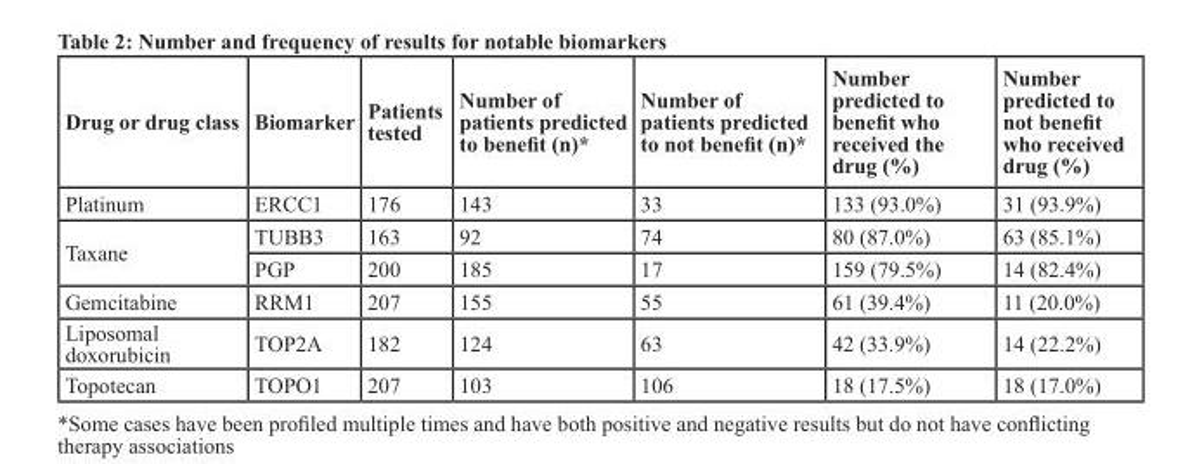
<table><thead><tr><td>Drug or drug class</td><td>Biomarker</td><td>Patients tested</td><td>Number of patients predicted to benefit (n)*</td><td>Number of patients predicted to not benefit (n)*</td><td>Number predicted to benefit who received the drug (%)</td><td>Number predicted to not benefit who received drug (%)</td></tr></thead><tbody><tr><td>Platinum</td><td>ERCC1</td><td>176</td><td>143</td><td>33</td><td>133 (93.0%)</td><td>31 (93.9%)</td></tr><tr><td rowspan="2">Taxane</td><td>TUBB3</td><td>163</td><td>92</td><td>74</td><td>80 (87.0%)</td><td>63 (85.1%)</td></tr><tr><td>PGP</td><td>200</td><td>185</td><td>17</td><td>159 (79.5%)</td><td>14 (82.4%)</td></tr><tr><td>Gemcitabine</td><td>RRM1</td><td>207</td><td>155</td><td>55</td><td>61 (39.4%)</td><td>11 (20.0%)</td></tr><tr><td>Liposomal doxorubicin</td><td>TOP2A</td><td>182</td><td>124</td><td>63</td><td>42 (33.9%)</td><td>14 (22.2%)</td></tr><tr><td>Topotecan</td><td>TOPO1</td><td>207</td><td>103</td><td>106</td><td>18 (17.5%)</td><td>18 (17.0%)</td></tr></tbody></table>